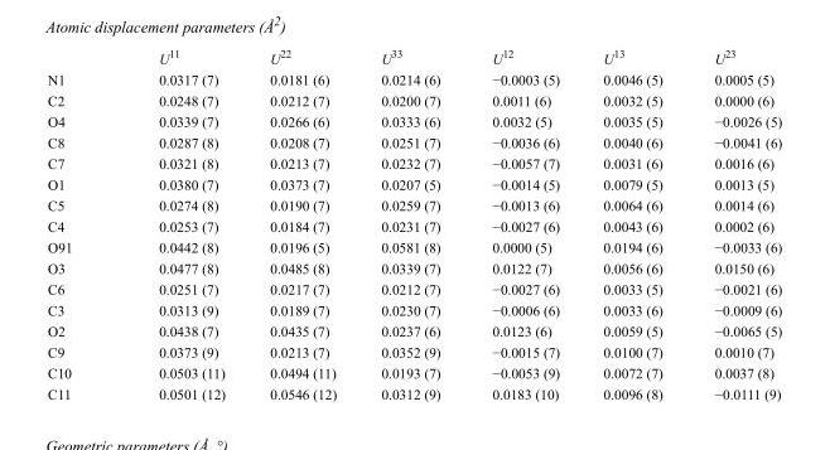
<table><thead><tr><td></td><td>U<sup>11</sup></td><td>U<sup>22</sup></td><td>U<sup>33</sup></td><td>U<sup>12</sup></td><td>U<sup>13</sup></td><td>U<sup>23</sup></td></tr></thead><tbody><tr><td>N1</td><td>0.0317 (7)</td><td>0.0181 (6)</td><td>0.0214 (6)</td><td>−0.0003 (5)</td><td>0.0046 (5)</td><td>0.0005 (5)</td></tr><tr><td>C2</td><td>0.0248 (7)</td><td>0.0212 (7)</td><td>0.0200 (7)</td><td>0.0011 (6)</td><td>0.0032 (5)</td><td>0.0000 (6)</td></tr><tr><td>O4</td><td>0.0339 (7)</td><td>0.0266 (6)</td><td>0.0333 (6)</td><td>0.0032 (5)</td><td>0.0035 (5)</td><td>−0.0026 (5)</td></tr><tr><td>C8</td><td>0.0287 (8)</td><td>0.0208 (7)</td><td>0.0251 (7)</td><td>−0.0036 (6)</td><td>0.0040 (6)</td><td>−0.0041 (6)</td></tr><tr><td>C7</td><td>0.0321 (8)</td><td>0.0213 (7)</td><td>0.0232 (7)</td><td>−0.0057 (7)</td><td>0.0031 (6)</td><td>0.0016 (6)</td></tr><tr><td>O1</td><td>0.0380 (7)</td><td>0.0373 (7)</td><td>0.0207 (5)</td><td>−0.0014 (5)</td><td>0.0079 (5)</td><td>0.0013 (5)</td></tr><tr><td>C5</td><td>0.0274 (8)</td><td>0.0190 (7)</td><td>0.0259 (7)</td><td>−0.0013 (6)</td><td>0.0064 (6)</td><td>0.0014 (6)</td></tr><tr><td>C4</td><td>0.0253 (7)</td><td>0.0184 (7)</td><td>0.0231 (7)</td><td>−0.0027 (6)</td><td>0.0043 (6)</td><td>0.0002 (6)</td></tr><tr><td>O91</td><td>0.0442 (8)</td><td>0.0196 (5)</td><td>0.0581 (8)</td><td>0.0000 (5)</td><td>0.0194 (6)</td><td>−0.0033 (6)</td></tr><tr><td>O3</td><td>0.0477 (8)</td><td>0.0485 (8)</td><td>0.0339 (7)</td><td>0.0122 (7)</td><td>0.0056 (6)</td><td>0.0150 (6)</td></tr><tr><td>C6</td><td>0.0251 (7)</td><td>0.0217 (7)</td><td>0.0212 (7)</td><td>−0.0027 (6)</td><td>0.0033 (5)</td><td>−0.0021 (6)</td></tr><tr><td>C3</td><td>0.0313 (9)</td><td>0.0189 (7)</td><td>0.0230 (7)</td><td>−0.0006 (6)</td><td>0.0033 (6)</td><td>−0.0009 (6)</td></tr><tr><td>O2</td><td>0.0438 (7)</td><td>0.0435 (7)</td><td>0.0237 (6)</td><td>0.0123 (6)</td><td>0.0059 (5)</td><td>−0.0065 (5)</td></tr><tr><td>C9</td><td>0.0373 (9)</td><td>0.0213 (7)</td><td>0.0352 (9)</td><td>−0.0015 (7)</td><td>0.0100 (7)</td><td>0.0010 (7)</td></tr><tr><td>C10</td><td>0.0503 (11)</td><td>0.0494 (11)</td><td>0.0193 (7)</td><td>−0.0053 (9)</td><td>0.0072 (7)</td><td>0.0037 (8)</td></tr><tr><td>C11</td><td>0.0501 (12)</td><td>0.0546 (12)</td><td>0.0312 (9)</td><td>0.0183 (10)</td><td>0.0096 (8)</td><td>−0.0111 (9)</td></tr></tbody></table>